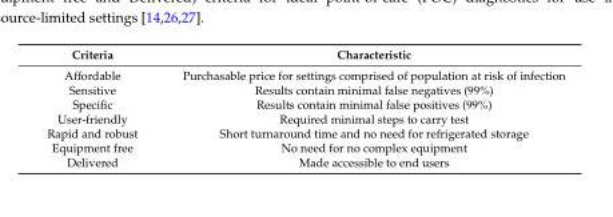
<table><thead><tr><td>Criteria</td><td>Characteristic</td></tr></thead><tbody><tr><td>Affordable</td><td>Purchasable price for settings comprised of population at risk of infection</td></tr><tr><td>Sensitive</td><td>Results contain minimal false negatives (99%)</td></tr><tr><td>Specific</td><td>Results contain minimal false positives (99%)</td></tr><tr><td>User-friendly</td><td>Required minimal steps to carry test</td></tr><tr><td>Rapid and robust</td><td>Short turnaround time and no need for refrigerated storage</td></tr><tr><td>Equipment free</td><td>No need for no complex equipment</td></tr><tr><td>Delivered</td><td>Made accessible to end users</td></tr></tbody></table>